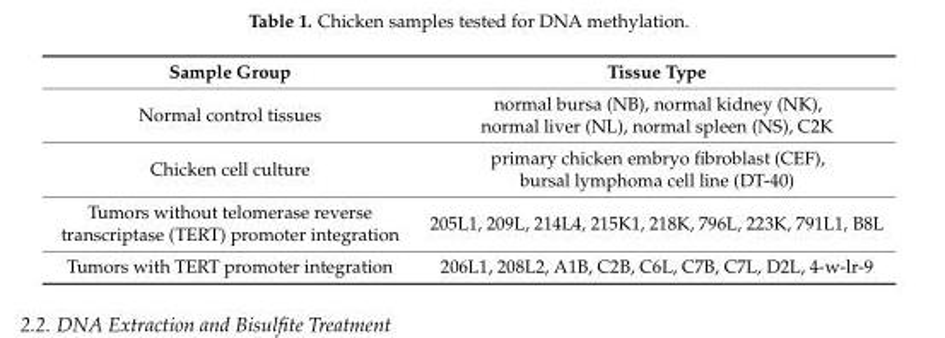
<table><thead><tr><td>Sample Group</td><td>Tissue Type</td></tr></thead><tbody><tr><td>Normal control tissues</td><td>normal bursa (NB), normal kidney (NK), normal liver (NL), normal spleen (NS), C2K</td></tr><tr><td>Chicken cell culture</td><td>primary chicken embryo fibroblast (CEF), bursal lymphoma cell line (DT-40)</td></tr><tr><td>Tumors without telomerase reverse transcriptase (TERT) promoter integration</td><td>205L1, 209L, 214L4, 215K1, 218K, 796L, 223K, 791L1, B8L</td></tr><tr><td>Tumors with TERT promoter integration</td><td>206L1, 208L2, A1B, C2B, C6L, C7B, C7L, D2L, 4-w-lr-9</td></tr></tbody></table>